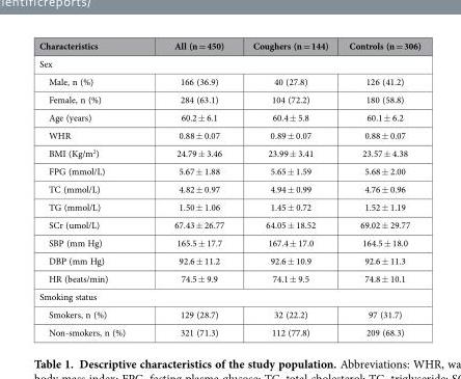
<table><thead><tr><td>Characteristics</td><td>All (n = 450)</td><td>Coughers (n = 144)</td><td>Controls (n = 306)</td></tr></thead><tbody><tr><td colspan="4">Sex</td></tr><tr><td>Male, n (%)</td><td>166 (36.9)</td><td>40 (27.8)</td><td>126 (41.2)</td></tr><tr><td>Female, n (%)</td><td>284 (63.1)</td><td>104 (72.2)</td><td>180 (58.8)</td></tr><tr><td>Age (years)</td><td>60.2 ± 6.1</td><td>60.4 ± 5.8</td><td>60.1 ± 6.2</td></tr><tr><td>WHR</td><td>0.88 ± 0.07</td><td>0.89 ± 0.07</td><td>0.88 ± 0.07</td></tr><tr><td>BMI (Kg/m<sup>2</sup>)</td><td>24.79 ± 3.46</td><td>23.99 ± 3.41</td><td>23.57 ± 4.38</td></tr><tr><td>FPG (mmol/L)</td><td>5.67 ± 1.88</td><td>5.65 ± 1.59</td><td>5.68 ± 2.00</td></tr><tr><td>TC (mmol/L)</td><td>4.82 ± 0.97</td><td>4.94 ± 0.99</td><td>4.76 ± 0.96</td></tr><tr><td>TG (mmol/L)</td><td>1.50 ± 1.06</td><td>1.45 ± 0.72</td><td>1.52 ± 1.19</td></tr><tr><td>SCr (umol/L)</td><td>67.43 ± 26.77</td><td>64.05 ± 18.52</td><td>69.02 ± 29.77</td></tr><tr><td>SBP (mm Hg)</td><td>165.5 ± 17.7</td><td>167.4 ± 17.0</td><td>164.5 ± 18.0</td></tr><tr><td>DBP (mm Hg)</td><td>92.6 ± 11.2</td><td>92.6 ± 10.9</td><td>92.6 ± 11.3</td></tr><tr><td>HR (beats/min)</td><td>74.5 ± 9.9</td><td>74.1 ± 9.5</td><td>74.8 ± 10.1</td></tr><tr><td colspan="4">Smoking status</td></tr><tr><td>Smokers, n (%)</td><td>129 (28.7)</td><td>32 (22.2)</td><td>97 (31.7)</td></tr><tr><td>Non-smokers, n (%)</td><td>321 (71.3)</td><td>112 (77.8)</td><td>209 (68.3)</td></tr></tbody></table>